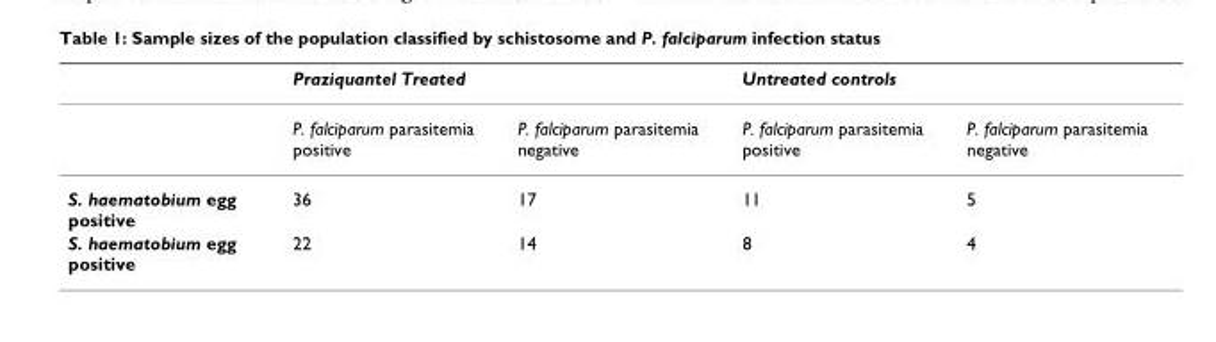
<table><thead><tr><td rowspan="2"></td><td colspan="2">Praziquantel Treated</td><td colspan="2">Untreated controls</td></tr><tr><td>P. falciparum parasitemia positive</td><td>P. falciparum parasitemia negative</td><td>P. falciparum parasitemia positive</td><td>P. falciparum parasitemia negative</td></tr></thead><tbody><tr><td>S. haematobium egg positive</td><td>36</td><td>17</td><td>11</td><td>5</td></tr><tr><td>S. haematobium egg positive</td><td>22</td><td>14</td><td>8</td><td>4</td></tr></tbody></table>